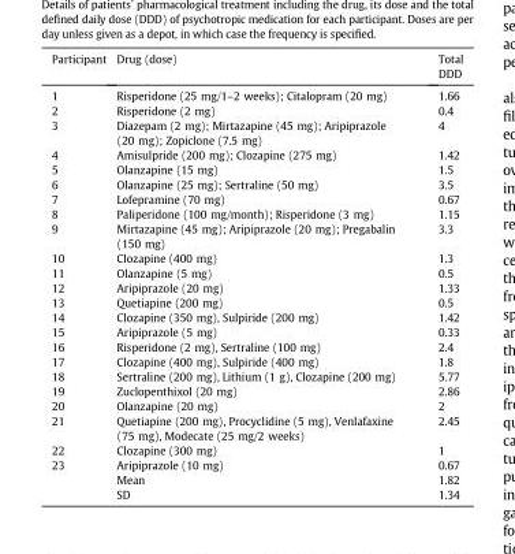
<table><thead><tr><td>Participant</td><td>Drug (dose)</td><td>Total DDD</td></tr></thead><tbody><tr><td>1</td><td>Risperidone (25 mg/1–2 weeks); Citalopram (20 mg)</td><td>1.66</td></tr><tr><td>2</td><td>Risperidone (2 mg)</td><td>0.4</td></tr><tr><td>3</td><td>Diazepam (2 mg); Mirtazapine (45 mg); Aripiprazole (20 mg); Zopiclone (7.5 mg)</td><td>4</td></tr><tr><td>4</td><td>Amisulpride (200 mg); Clozapine (275 mg)</td><td>1.42</td></tr><tr><td>5</td><td>Olanzapine (15 mg)</td><td>1.5</td></tr><tr><td>6</td><td>Olanzapine (25 mg); Sertraline (50 mg)</td><td>3.5</td></tr><tr><td>7</td><td>Lofepramine (70 mg)</td><td>0.67</td></tr><tr><td>8</td><td>Paliperidone (100 mg/month); Risperidone (3 mg)</td><td>1.15</td></tr><tr><td>9</td><td>Mirtazapine (45 mg); Aripiprazole (20 mg); Pregabalin (150 mg)</td><td>3.3</td></tr><tr><td>10</td><td>Clozapine (400 mg)</td><td>1.3</td></tr><tr><td>11</td><td>Olanzapine (5 mg)</td><td>0.5</td></tr><tr><td>12</td><td>Aripiprazole (20 mg)</td><td>1.33</td></tr><tr><td>13</td><td>Quetiapine (200 mg)</td><td>0.5</td></tr><tr><td>14</td><td>Clozapine (350 mg), Sulpiride (200 mg)</td><td>1.42</td></tr><tr><td>15</td><td>Aripiprazole (5 mg)</td><td>0.33</td></tr><tr><td>16</td><td>Risperidone (2 mg), Sertraline (100 mg)</td><td>2.4</td></tr><tr><td>17</td><td>Clozapine (400 mg), Sulpiride (400 mg)</td><td>1.8</td></tr><tr><td>18</td><td>Sertraline (200 mg), Lithium (1 g), Clozapine (200 mg)</td><td>5.77</td></tr><tr><td>19</td><td>Zuclopenthixol (20 mg)</td><td>2.86</td></tr><tr><td>20</td><td>Olanzapine (20 mg)</td><td>2</td></tr><tr><td>21</td><td>Quetiapine (200 mg), Procyclidine (5 mg), Venlafaxine (75 mg), Modecate (25 mg/2 weeks)</td><td>2.45</td></tr><tr><td>22</td><td>Clozapine (300 mg)</td><td>1</td></tr><tr><td rowspan="3">23</td><td>Aripiprazole (10 mg)</td><td>0.67</td></tr><tr><td>Mean</td><td>1.82</td></tr><tr><td>SD</td><td>1.34</td></tr></tbody></table>